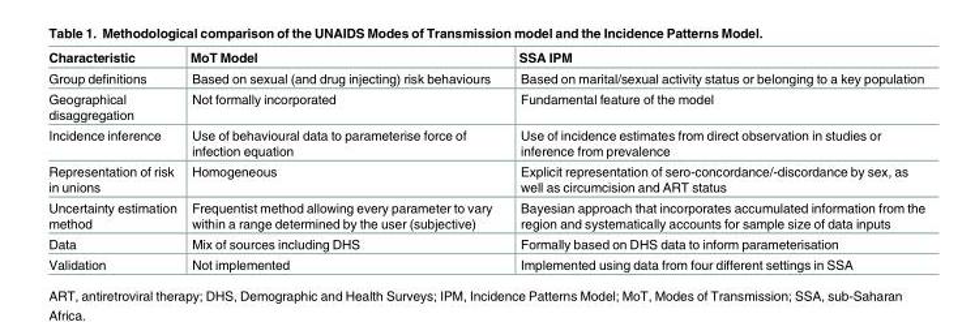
<table><thead><tr><td>Characteristic</td><td>MoT Model</td><td>SSA IPM</td></tr></thead><tbody><tr><td>Group definitions</td><td>Based on sexual (and drug injecting) risk behaviours</td><td>Based on marital/sexual activity status or belonging to a key population</td></tr><tr><td>Geographical disaggregation</td><td>Not formally incorporated</td><td>Fundamental feature of the model</td></tr><tr><td>Incidence inference</td><td>Use of behavioural data to parameterise force of infection equation</td><td>Use of incidence estimates from direct observation in studies or inference from prevalence</td></tr><tr><td>Representation of risk in unions</td><td>Homogeneous</td><td>Explicit representation of sero-concordance/-discordance by sex, as well as circumcision and ART status</td></tr><tr><td>Uncertainty estimation method</td><td>Frequentist method allowing every parameter to vary within a range determined by the user (subjective)</td><td>Bayesian approach that incorporates accumulated information from the region and systematically accounts for sample size of data inputs</td></tr><tr><td>Data</td><td>Mix of sources including DHS</td><td>Formally based on DHS data to inform parameterisation</td></tr><tr><td>Validation</td><td>Not implemented</td><td>Implemented using data from four different settings in SSA</td></tr></tbody></table>